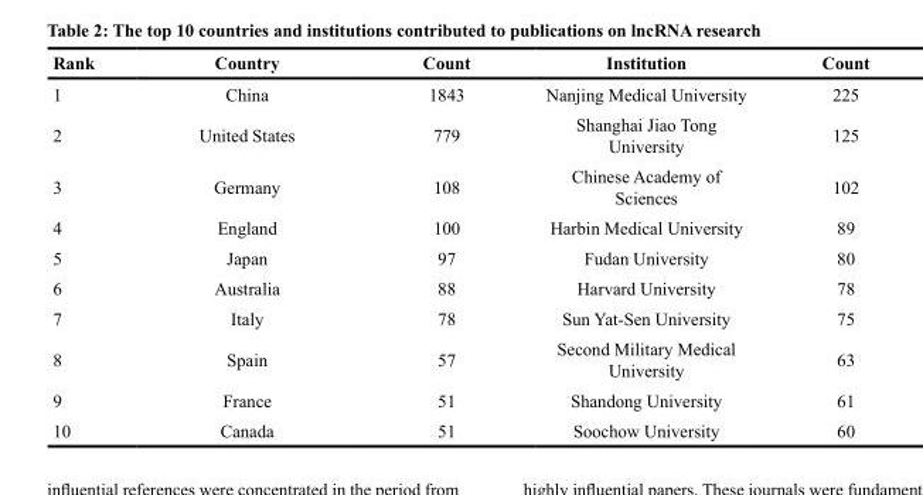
<table><thead><tr><td>Rank</td><td>Country</td><td>Count</td><td>Institution</td><td>Count</td></tr></thead><tbody><tr><td>1</td><td>China</td><td>1843</td><td>Nanjing Medical University</td><td>225</td></tr><tr><td>2</td><td>United States</td><td>779</td><td>Shanghai Jiao Tong University</td><td>125</td></tr><tr><td>3</td><td>Germany</td><td>108</td><td>Chinese Academy of Sciences</td><td>102</td></tr><tr><td>4</td><td>England</td><td>100</td><td>Harbin Medical University</td><td>89</td></tr><tr><td>5</td><td>Japan</td><td>97</td><td>Fudan University</td><td>80</td></tr><tr><td>6</td><td>Australia</td><td>88</td><td>Harvard University</td><td>78</td></tr><tr><td>7</td><td>Italy</td><td>78</td><td>Sun Yat-Sen University</td><td>75</td></tr><tr><td>8</td><td>Spain</td><td>57</td><td>Second Military Medical University</td><td>63</td></tr><tr><td>9</td><td>France</td><td>51</td><td>Shandong University</td><td>61</td></tr><tr><td>10</td><td>Canada</td><td>51</td><td>Soochow University</td><td>60</td></tr></tbody></table>